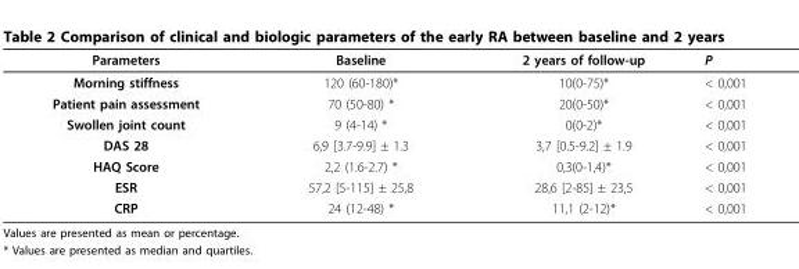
<table><thead><tr><td>Parameters</td><td>Baseline</td><td>2 years of follow-up</td><td>P</td></tr></thead><tbody><tr><td>Morning stiffness</td><td>120 (60-180)*</td><td>10(0-75)*</td><td>&lt; 0,001</td></tr><tr><td>Patient pain assessment</td><td>70 (50-80) *</td><td>20(0-50)*</td><td>&lt; 0,001</td></tr><tr><td>Swollen joint count</td><td>9 (4-14) *</td><td>0(0-2)*</td><td>&lt; 0,001</td></tr><tr><td>DAS 28</td><td>6,9 [3.7-9.9] ± 1.3</td><td>3,7 [0.5-9.2] ± 1.9</td><td>&lt; 0,001</td></tr><tr><td>HAQ Score</td><td>2,2 (1.6-2.7) *</td><td>0,3(0-1,4)*</td><td>&lt; 0,001</td></tr><tr><td>ESR</td><td>57,2 [5-115] ± 25,8</td><td>28,6 [2-85] ± 23,5</td><td>&lt; 0,001</td></tr><tr><td>CRP</td><td>24 (12-48) *</td><td>11,1 (2-12)*</td><td>&lt; 0,001</td></tr></tbody></table>